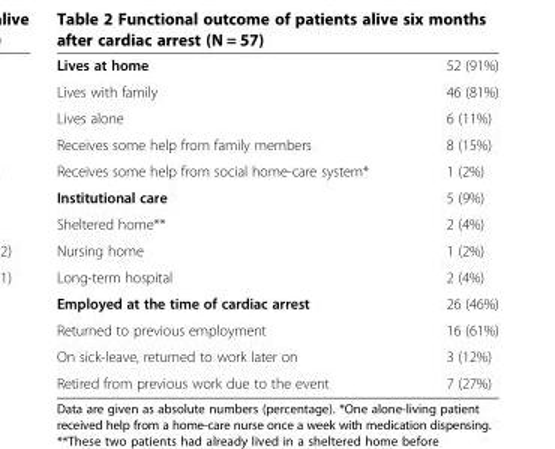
<table><tbody><tr><td>Lives at home</td><td>52 (91%)</td></tr><tr><td>Lives with family</td><td>46 (81%)</td></tr><tr><td>Lives alone</td><td>6 (11%)</td></tr><tr><td>Receives some help from family members</td><td>8 (15%)</td></tr><tr><td>Receives some help from social home-care system*</td><td>1 (2%)</td></tr><tr><td>Institutional care</td><td>5 (9%)</td></tr><tr><td>Sheltered home**</td><td>2 (4%)</td></tr><tr><td>Nursing home</td><td>1 (2%)</td></tr><tr><td>Long-term hospital</td><td>2 (4%)</td></tr><tr><td>Employed at the time of cardiac arrest</td><td>26 (46%)</td></tr><tr><td>Returned to previous employment</td><td>16 (61%)</td></tr><tr><td>On sick-leave, returned to work later on</td><td>3 (12%)</td></tr><tr><td>Retired from previous work due to the event</td><td>7 (27%)</td></tr></tbody></table>